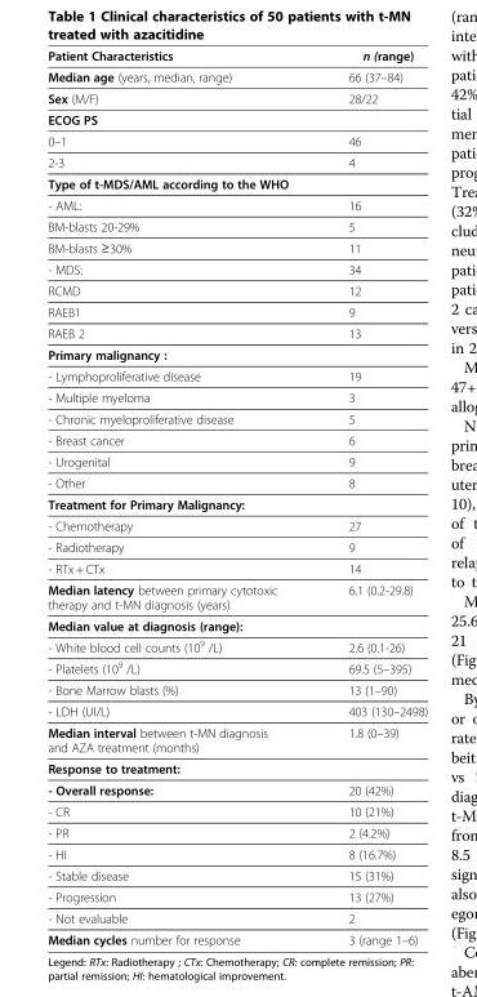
<table><thead><tr><td>Patient Characteristics</td><td>n (range)</td></tr></thead><tbody><tr><td>Median age (years, median, range)</td><td>66 (37–84)</td></tr><tr><td>Sex (M/F)</td><td>28/22</td></tr><tr><td colspan="2">ECOG PS</td></tr><tr><td>0–1</td><td>46</td></tr><tr><td>2-3</td><td>4</td></tr><tr><td colspan="2">Type of t-MDS/AML according to the WHO</td></tr><tr><td>- AML:</td><td>16</td></tr><tr><td>BM-blasts 20-29%</td><td>5</td></tr><tr><td>BM-blasts ≥30%</td><td>11</td></tr><tr><td>- MDS:</td><td>34</td></tr><tr><td>RCMD</td><td>12</td></tr><tr><td>RAEB1</td><td>9</td></tr><tr><td>RAEB 2</td><td>13</td></tr><tr><td colspan="2">Primary malignancy :</td></tr><tr><td>- Lymphoproliferative disease</td><td>19</td></tr><tr><td>- Multiple myeloma</td><td>3</td></tr><tr><td>- Chronic myeloproliferative disease</td><td>5</td></tr><tr><td>- Breast cancer</td><td>6</td></tr><tr><td>- Urogenital</td><td>9</td></tr><tr><td>- Other</td><td>8</td></tr><tr><td colspan="2">Treatment for Primary Malignancy:</td></tr><tr><td>- Chemotherapy</td><td>27</td></tr><tr><td>- Radiotherapy</td><td>9</td></tr><tr><td>- RTx + CTx</td><td>14</td></tr><tr><td>Median latency between primary cytotoxic therapy and t-MN diagnosis (years)</td><td>6.1 (0.2-29.8)</td></tr><tr><td colspan="2">Median value at diagnosis (range):</td></tr><tr><td>- White blood cell counts (10<sup>9</sup> /L)</td><td>2.6 (0.1-26)</td></tr><tr><td>- Platelets (10<sup>9</sup> /L)</td><td>69.5 (5–395)</td></tr><tr><td>- Bone Marrow blasts (%)</td><td>13 (1–90)</td></tr><tr><td>- LDH (UI/L)</td><td>403 (130–2498)</td></tr><tr><td>Median interval between t-MN diagnosis and AZA treatment (months)</td><td>1.8 (0–39)</td></tr><tr><td colspan="2">Response to treatment:</td></tr><tr><td>- Overall response:</td><td>20 (42%)</td></tr><tr><td>- CR</td><td>10 (21%)</td></tr><tr><td>- PR</td><td>2 (4.2%)</td></tr><tr><td>- HI</td><td>8 (16.7%)</td></tr><tr><td>- Stable disease</td><td>15 (31%)</td></tr><tr><td>- Progression</td><td>13 (27%)</td></tr><tr><td>- Not evaluable</td><td>2</td></tr><tr><td>Median cycles number for response</td><td>3 (range 1–6)</td></tr></tbody></table>